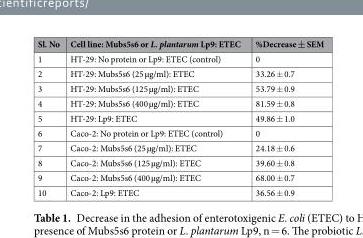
<table><thead><tr><td>Sl. No</td><td>Cell line: Mubs5s6 or L. plantarum Lp9: ETEC</td><td>%Decrease ± SEM</td></tr></thead><tbody><tr><td>1</td><td>HT-29: No protein or Lp9: ETEC (control)</td><td>0</td></tr><tr><td>2</td><td>HT-29: Mubs5s6 (25 µg/ml): ETEC</td><td>33.26 ± 0.7</td></tr><tr><td>3</td><td>HT-29: Mubs5s6 (125 µg/ml): ETEC</td><td>53.79 ± 0.9</td></tr><tr><td>4</td><td>HT-29: Mubs5s6 (400 µg/ml): ETEC</td><td>81.59 ± 0.8</td></tr><tr><td>5</td><td>HT-29: Lp9: ETEC</td><td>49.86 ± 1.0</td></tr><tr><td>6</td><td>Caco-2: No protein or Lp9: ETEC (control)</td><td>0</td></tr><tr><td>7</td><td>Caco-2: Mubs5s6 (25 µg/ml): ETEC</td><td>24.18 ± 0.6</td></tr><tr><td>8</td><td>Caco-2: Mubs5s6 (125 µg/ml): ETEC</td><td>39.60 ± 0.8</td></tr><tr><td>9</td><td>Caco-2: Mubs5s6 (400 µg/ml): ETEC</td><td>68.00 ± 0.7</td></tr><tr><td>10</td><td>Caco-2: Lp9: ETEC</td><td>36.56 ± 0.9</td></tr></tbody></table>